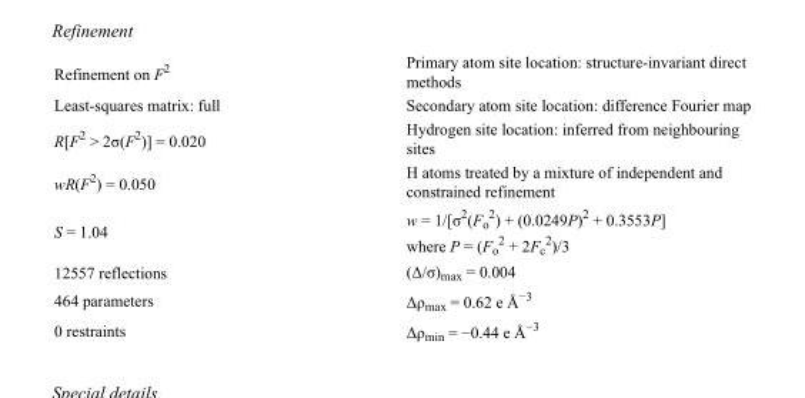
<table><tbody><tr><td>Refinement on F<sup>2</sup></td><td>Primary atom site location: structure-invariant direct methods</td></tr><tr><td>Least-squares matrix: full</td><td>Secondary atom site location: difference Fourier map</td></tr><tr><td>R[F<sup>2</sup> &gt; 2σ(F<sup>2</sup>)] = 0.020</td><td>Hydrogen site location: inferred from neighbouring sites</td></tr><tr><td>wR(F<sup>2</sup>) = 0.050</td><td>H atoms treated by a mixture of independent and constrained refinement</td></tr><tr><td>S = 1.04</td><td>w = 1/[σ<sup>2</sup>(F<sub>o</sub> <sup>2</sup>) + (0.0249P)<sup>2</sup> + 0.3553P] where P = (F<sub>o</sub> <sup>2</sup> + 2F<sub>c</sub> <sup>2</sup>)/3</td></tr><tr><td>12557 reflections</td><td>(Δ/σ)<sub>max</sub> = 0.004</td></tr><tr><td>464 parameters</td><td>Δρ<sub>max</sub> = 0.62 e Å<sup>−3</sup></td></tr><tr><td>0 restraints</td><td>Δρ<sub>min</sub> = −0.44 e Å<sup>−3</sup></td></tr></tbody></table>